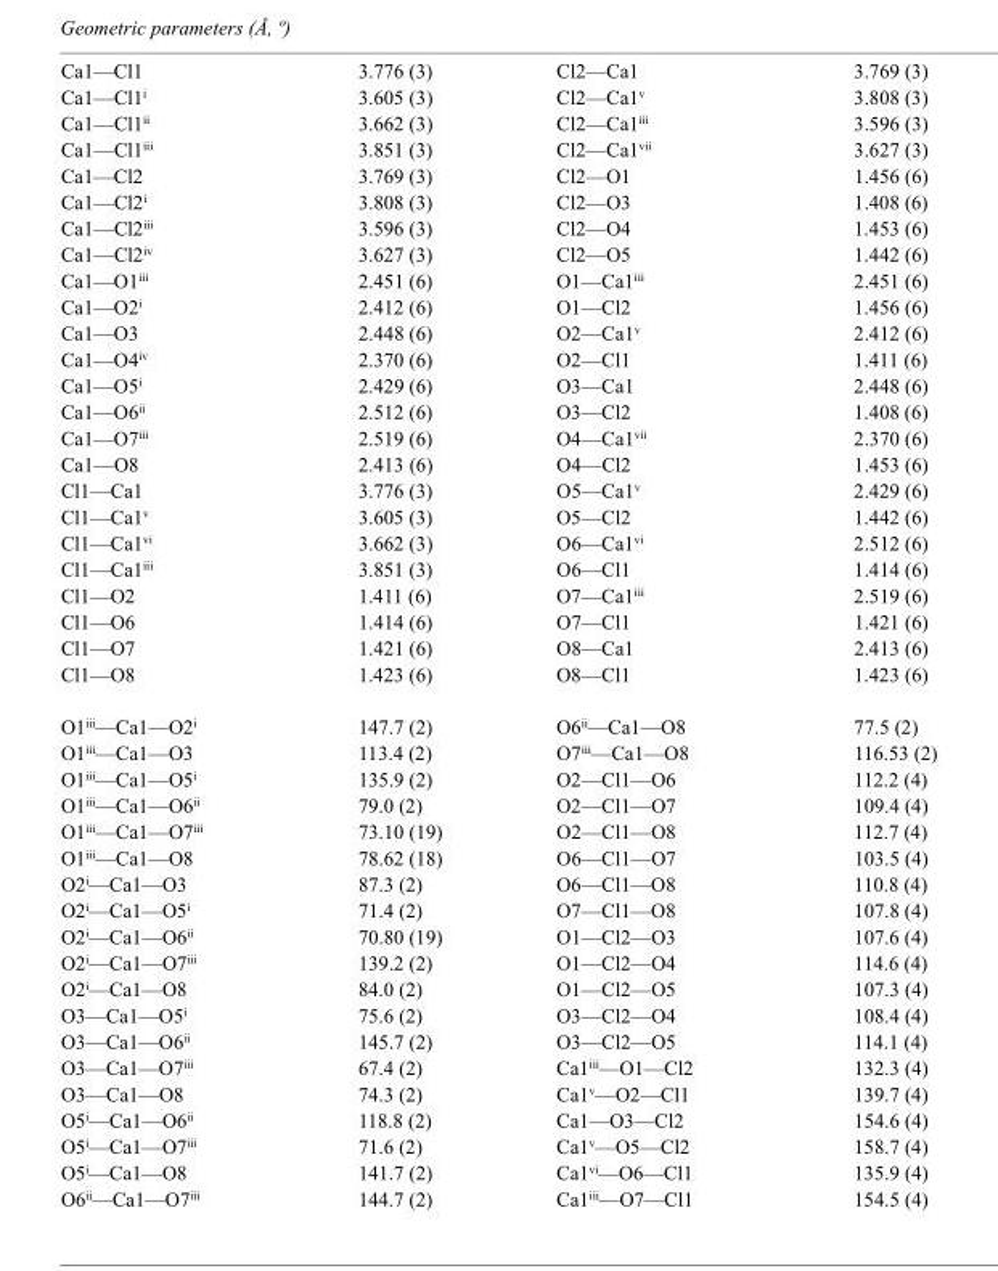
<table><tbody><tr><td>Ca1—Cl1</td><td>3.776 (3)</td><td>Cl2—Ca1</td><td>3.769 (3)</td></tr><tr><td>Ca1—Cl1<sup>i</sup></td><td>3.605 (3)</td><td>Cl2—Ca1<sup>v</sup></td><td>3.808 (3)</td></tr><tr><td>Ca1—Cl1<sup>ii</sup></td><td>3.662 (3)</td><td>Cl2—Ca1<sup>iii</sup></td><td>3.596 (3)</td></tr><tr><td>Ca1—Cl1<sup>iii</sup></td><td>3.851 (3)</td><td>Cl2—Ca1<sup>vii</sup></td><td>3.627 (3)</td></tr><tr><td>Ca1—Cl2</td><td>3.769 (3)</td><td>Cl2—O1</td><td>1.456 (6)</td></tr><tr><td>Ca1—Cl2<sup>i</sup></td><td>3.808 (3)</td><td>Cl2—O3</td><td>1.408 (6)</td></tr><tr><td>Ca1—Cl2<sup>iii</sup></td><td>3.596 (3)</td><td>Cl2—O4</td><td>1.453 (6)</td></tr><tr><td>Ca1—Cl2<sup>iv</sup></td><td>3.627 (3)</td><td>Cl2—O5</td><td>1.442 (6)</td></tr><tr><td>Ca1—O1<sup>iii</sup></td><td>2.451 (6)</td><td>O1—Ca1<sup>iii</sup></td><td>2.451 (6)</td></tr><tr><td>Ca1—O2<sup>i</sup></td><td>2.412 (6)</td><td>O1—Cl2</td><td>1.456 (6)</td></tr><tr><td>Ca1—O3</td><td>2.448 (6)</td><td>O2—Ca1<sup>v</sup></td><td>2.412 (6)</td></tr><tr><td>Ca1—O4<sup>iv</sup></td><td>2.370 (6)</td><td>O2—Cl1</td><td>1.411 (6)</td></tr><tr><td>Ca1—O5<sup>i</sup></td><td>2.429 (6)</td><td>O3—Ca1</td><td>2.448 (6)</td></tr><tr><td>Ca1—O6<sup>ii</sup></td><td>2.512 (6)</td><td>O3—Cl2</td><td>1.408 (6)</td></tr><tr><td>Ca1—O7<sup>iii</sup></td><td>2.519 (6)</td><td>O4—Ca1<sup>vii</sup></td><td>2.370 (6)</td></tr><tr><td>Ca1—O8</td><td>2.413 (6)</td><td>O4—Cl2</td><td>1.453 (6)</td></tr><tr><td>Cl1—Ca1</td><td>3.776 (3)</td><td>O5—Ca1<sup>v</sup></td><td>2.429 (6)</td></tr><tr><td>Cl1—Ca1<sup>v</sup></td><td>3.605 (3)</td><td>O5—Cl2</td><td>1.442 (6)</td></tr><tr><td>Cl1—Ca1<sup>vi</sup></td><td>3.662 (3)</td><td>O6—Ca1<sup>vi</sup></td><td>2.512 (6)</td></tr><tr><td>Cl1—Ca1<sup>iii</sup></td><td>3.851 (3)</td><td>O6—Cl1</td><td>1.414 (6)</td></tr><tr><td>Cl1—O2</td><td>1.411 (6)</td><td>O7—Ca1<sup>iii</sup></td><td>2.519 (6)</td></tr><tr><td>Cl1—O6</td><td>1.414 (6)</td><td>O7—Cl1</td><td>1.421 (6)</td></tr><tr><td>Cl1—O7</td><td>1.421 (6)</td><td>O8—Ca1</td><td>2.413 (6)</td></tr><tr><td>Cl1—O8</td><td>1.423 (6)</td><td>O8—Cl1</td><td>1.423 (6)</td></tr><tr><td>O1<sup>iii</sup>—Ca1—O2<sup>i</sup></td><td>147.7 (2)</td><td>O6<sup>ii</sup>—Ca1—O8</td><td>77.5 (2)</td></tr><tr><td>O1<sup>iii</sup>—Ca1—O3</td><td>113.4 (2)</td><td>O7<sup>iii</sup>—Ca1—O8</td><td>116.53 (2)</td></tr><tr><td>O1<sup>iii</sup>—Ca1—O5<sup>i</sup></td><td>135.9 (2)</td><td>O2—Cl1—O6</td><td>112.2 (4)</td></tr><tr><td>O1<sup>iii</sup>—Ca1—O6<sup>ii</sup></td><td>79.0 (2)</td><td>O2—Cl1—O7</td><td>109.4 (4)</td></tr><tr><td>O1<sup>iii</sup>—Ca1—O7<sup>iii</sup></td><td>73.10 (19)</td><td>O2—Cl1—O8</td><td>112.7 (4)</td></tr><tr><td>O1<sup>iii</sup>—Ca1—O8</td><td>78.62 (18)</td><td>O6—Cl1—O7</td><td>103.5 (4)</td></tr><tr><td>O2<sup>i</sup>—Ca1—O3</td><td>87.3 (2)</td><td>O6—Cl1—O8</td><td>110.8 (4)</td></tr><tr><td>O2<sup>i</sup>—Ca1—O5<sup>i</sup></td><td>71.4 (2)</td><td>O7—Cl1—O8</td><td>107.8 (4)</td></tr><tr><td>O2<sup>i</sup>—Ca1—O6<sup>ii</sup></td><td>70.80 (19)</td><td>O1—Cl2—O3</td><td>107.6 (4)</td></tr><tr><td>O2<sup>i</sup>—Ca1—O7<sup>iii</sup></td><td>139.2 (2)</td><td>O1—Cl2—O4</td><td>114.6 (4)</td></tr><tr><td>O2<sup>i</sup>—Ca1—O8</td><td>84.0 (2)</td><td>O1—Cl2—O5</td><td>107.3 (4)</td></tr><tr><td>O3—Ca1—O5<sup>i</sup></td><td>75.6 (2)</td><td>O3—Cl2—O4</td><td>108.4 (4)</td></tr><tr><td>O3—Ca1—O6<sup>ii</sup></td><td>145.7 (2)</td><td>O3—Cl2—O5</td><td>114.1 (4)</td></tr><tr><td>O3—Ca1—O7<sup>iii</sup></td><td>67.4 (2)</td><td>Ca1<sup>iii</sup>—O1—Cl2</td><td>132.3 (4)</td></tr><tr><td>O3—Ca1—O8</td><td>74.3 (2)</td><td>Ca1<sup>v</sup>—O2—Cl1</td><td>139.7 (4)</td></tr><tr><td>O5<sup>i</sup>—Ca1—O6<sup>ii</sup></td><td>118.8 (2)</td><td>Ca1—O3—Cl2</td><td>154.6 (4)</td></tr><tr><td>O5<sup>i</sup>—Ca1—O7<sup>iii</sup></td><td>71.6 (2)</td><td>Ca1<sup>v</sup>—O5—Cl2</td><td>158.7 (4)</td></tr><tr><td>O5<sup>i</sup>—Ca1—O8</td><td>141.7 (2)</td><td>Ca1<sup>vi</sup>—O6—Cl1</td><td>135.9 (4)</td></tr><tr><td>O6<sup>ii</sup>—Ca1—O7<sup>iii</sup></td><td>144.7 (2)</td><td>Ca1<sup>iii</sup>—O7—Cl1</td><td>154.5 (4)</td></tr></tbody></table>